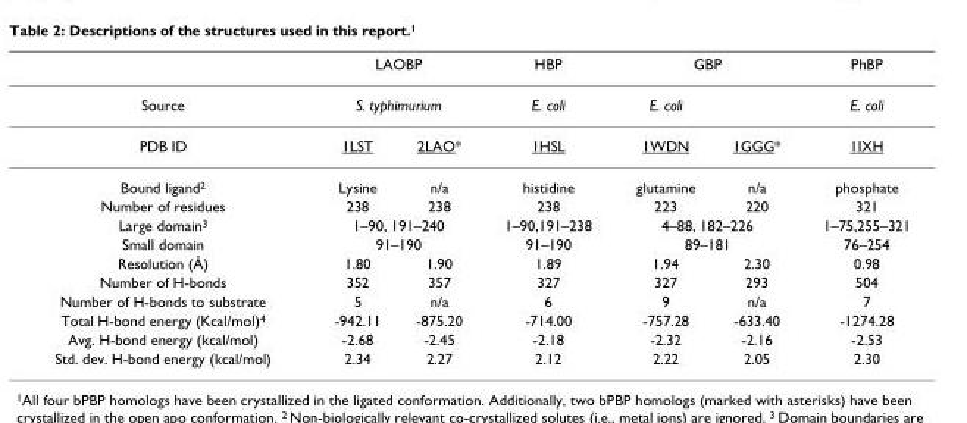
<table><thead><tr><td rowspan="3">Source PDB ID</td><td rowspan="2" colspan="2">LAOBP S. typhimurium</td><td rowspan="3">HBP E. coli 1HSL</td><td colspan="2">GBP</td><td rowspan="3">PhBP E. coli 1IXH</td></tr><tr><td rowspan="2">E. coli 1WDN</td><td rowspan="2">1GGG*</td></tr><tr><td>1LST</td><td>2LAO*</td></tr></thead><tbody><tr><td>Bound ligand<sup>2</sup></td><td>Lysine</td><td>n/a</td><td>histidine</td><td>glutamine</td><td>n/a</td><td>phosphate</td></tr><tr><td>Number of residues</td><td>238</td><td>238</td><td>238</td><td>223</td><td>220</td><td>321</td></tr><tr><td>Large domain<sup>3</sup></td><td colspan="2">1–90, 191–240</td><td>1–90,191–238</td><td colspan="2">4–88, 182–226</td><td>1–75,255–321</td></tr><tr><td>Small domain</td><td colspan="2">91–190</td><td>91–190</td><td colspan="2">89–181</td><td>76–254</td></tr><tr><td>Resolution (Å)</td><td>1.80</td><td>1.90</td><td>1.89</td><td>1.94</td><td>2.30</td><td>0.98</td></tr><tr><td>Number of H-bonds</td><td>352</td><td>357</td><td>327</td><td>327</td><td>293</td><td>504</td></tr><tr><td>Number of H-bonds to substrate</td><td>5</td><td>n/a</td><td>6</td><td>9</td><td>n/a</td><td>7</td></tr><tr><td>Total H-bond energy (Kcal/mol)<sup>4</sup></td><td>-942.11</td><td>-875.20</td><td>-714.00</td><td>-757.28</td><td>-633.40</td><td>-1274.28</td></tr><tr><td>Avg. H-bond energy (kcal/mol)</td><td>-2.68</td><td>-2.45</td><td>-2.18</td><td>-2.32</td><td>-2.16</td><td>-2.53</td></tr><tr><td>Std. dev. H-bond energy (kcal/mol)</td><td>2.34</td><td>2.27</td><td>2.12</td><td>2.22</td><td>2.05</td><td>2.30</td></tr></tbody></table>